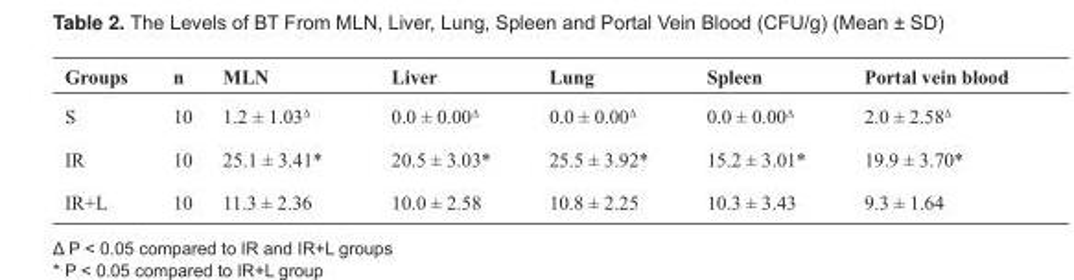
<table><thead><tr><td>Groups</td><td>n</td><td>MLN</td><td>Liver</td><td>Lung</td><td>Spleen</td><td>Portal vein blood</td></tr></thead><tbody><tr><td>S</td><td>10</td><td>1.2 ± 1.03<sup>Δ</sup></td><td>0.0 ± 0.00<sup>Δ</sup></td><td>0.0 ± 0.00<sup>Δ</sup></td><td>0.0 ± 0.00<sup>Δ</sup></td><td>2.0 ± 2.58<sup>Δ</sup></td></tr><tr><td>IR</td><td>10</td><td>25.1 ± 3.41*</td><td>20.5 ± 3.03*</td><td>25.5 ± 3.92*</td><td>15.2 ± 3.01*</td><td>19.9 ± 3.70*</td></tr><tr><td>IR+L</td><td>10</td><td>11.3 ± 2.36</td><td>10.0 ± 2.58</td><td>10.8 ± 2.25</td><td>10.3 ± 3.43</td><td>9.3 ± 1.64</td></tr></tbody></table>